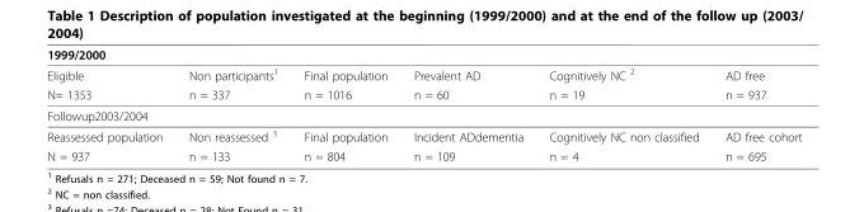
<table><thead><tr><td colspan="6">1999/2000</td></tr><tr><td>Eligible</td><td>Non participants<sup>1</sup></td><td>Final population</td><td>Prevalent AD</td><td>Cognitively NC <sup>2</sup></td><td>AD free</td></tr></thead><tbody><tr><td>N= 1353</td><td>n = 337</td><td>n = 1016</td><td>n = 60</td><td>n = 19</td><td>n = 937</td></tr><tr><td colspan="6">Followup2003/2004</td></tr><tr><td>Reassessed population</td><td>Non reassessed <sup>3</sup></td><td>Final population</td><td>Incident ADdementia</td><td>Cognitively NC non classified</td><td>AD free cohort</td></tr><tr><td>N = 937</td><td>n = 133</td><td>n = 804</td><td>n = 109</td><td>n = 4</td><td>n = 695</td></tr></tbody></table>